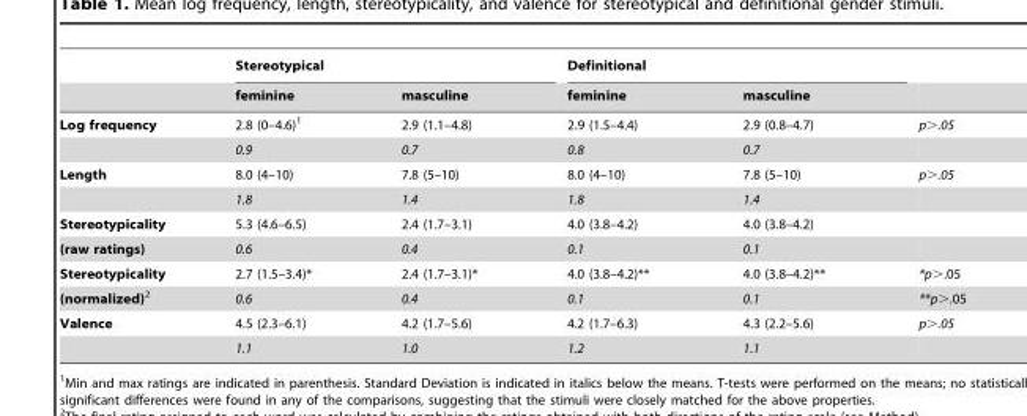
<table><thead><tr><td rowspan="2"></td><td colspan="2">Stereotypical</td><td colspan="2">Definitional</td><td rowspan="2"></td></tr><tr><td>feminine</td><td>masculine</td><td>feminine</td><td>masculine</td></tr></thead><tbody><tr><td rowspan="2">Log frequency</td><td>2.8 (0–4.6)<sup>1</sup></td><td>2.9 (1.1–4.8)</td><td>2.9 (1.5–4.4)</td><td>2.9 (0.8–4.7)</td><td>p&gt;.05</td></tr><tr><td>0.9</td><td>0.7</td><td>0.8</td><td>0.7</td><td></td></tr><tr><td rowspan="2">Length</td><td>8.0 (4–10)</td><td>7.8 (5–10)</td><td>8.0 (4–10)</td><td>7.8 (5–10)</td><td>p&gt;.05</td></tr><tr><td>1.8</td><td>1.4</td><td>1.8</td><td>1.4</td><td></td></tr><tr><td>Stereotypicality</td><td>5.3 (4.6–6.5)</td><td>2.4 (1.7–3.1)</td><td>4.0 (3.8–4.2)</td><td>4.0 (3.8–4.2)</td><td></td></tr><tr><td>(raw ratings)</td><td>0.6</td><td>0.4</td><td>0.1</td><td>0.1</td><td></td></tr><tr><td>Stereotypicality</td><td>2.7 (1.5–3.4)*</td><td>2.4 (1.7–3.1)*</td><td>4.0 (3.8–4.2)**</td><td>4.0 (3.8–4.2)**</td><td>*p&gt;.05</td></tr><tr><td>(normalized)2</td><td>0.6</td><td>0.4</td><td>0.1</td><td>0.1</td><td>**p&gt;.05</td></tr><tr><td rowspan="2">Valence</td><td>4.5 (2.3–6.1)</td><td>4.2 (1.7–5.6)</td><td>4.2 (1.7–6.3)</td><td>4.3 (2.2–5.6)</td><td>p&gt;.05</td></tr><tr><td>1.1</td><td>1.0</td><td>1.2</td><td>1.1</td><td></td></tr></tbody></table>